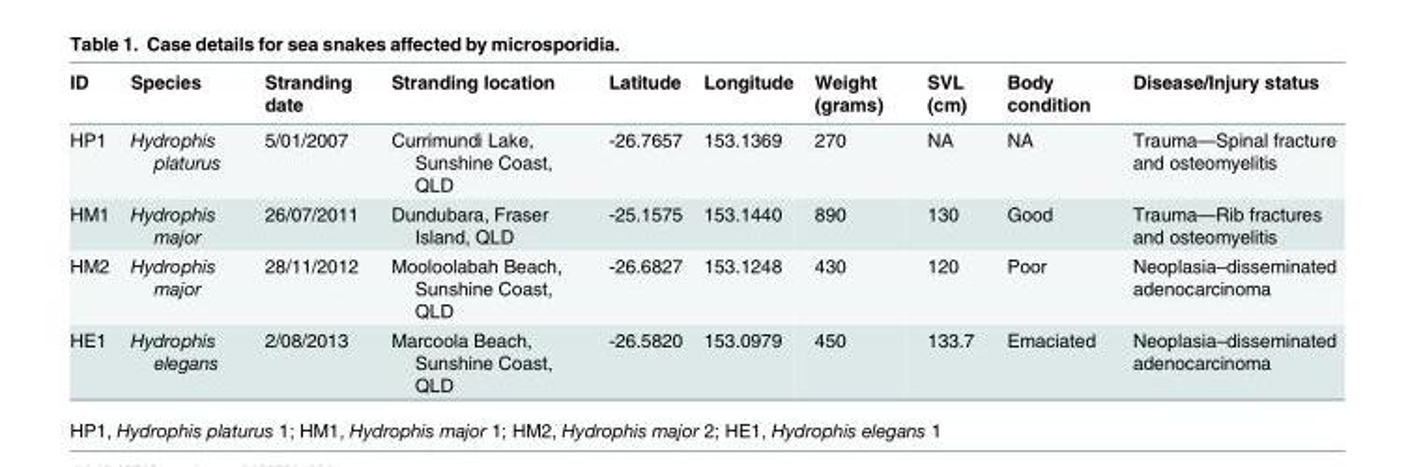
<table><thead><tr><td>ID</td><td>Species</td><td>Stranding date</td><td>Stranding location</td><td>Latitude</td><td>Longitude</td><td>Weight (grams)</td><td>SVL (cm)</td><td>Body condition</td><td>Disease/Injury status</td></tr></thead><tbody><tr><td>HP1</td><td>Hydrophis platurus</td><td>5/01/2007</td><td>Currimundi Lake, Sunshine Coast, QLD</td><td>-26.7657</td><td>153.1369</td><td>270</td><td>NA</td><td>NA</td><td>Trauma—Spinal fracture and osteomyelitis</td></tr><tr><td>HM1</td><td>Hydrophis major</td><td>26/07/2011</td><td>Dundubara, Fraser Island, QLD</td><td>-25.1575</td><td>153.1440</td><td>890</td><td>130</td><td>Good</td><td>Trauma—Rib fractures and osteomyelitis</td></tr><tr><td>HM2</td><td>Hydrophis major</td><td>28/11/2012</td><td>Mooloolabah Beach, Sunshine Coast, QLD</td><td>-26.6827</td><td>153.1248</td><td>430</td><td>120</td><td>Poor</td><td>Neoplasia–disseminated adenocarcinoma</td></tr><tr><td>HE1</td><td>Hydrophis elegans</td><td>2/08/2013</td><td>Marcoola Beach, Sunshine Coast, QLD</td><td>-26.5820</td><td>153.0979</td><td>450</td><td>133.7</td><td>Emaciated</td><td>Neoplasia–disseminated adenocarcinoma</td></tr></tbody></table>